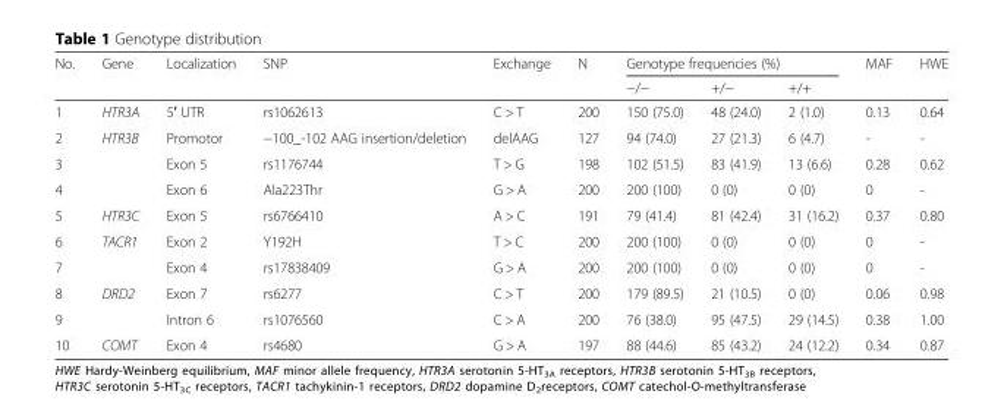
<table><thead><tr><td rowspan="2">No.</td><td rowspan="2">Gene</td><td rowspan="2">Localization</td><td rowspan="2">SNP</td><td rowspan="2">Exchange</td><td rowspan="2">N</td><td colspan="3">Genotype frequencies (%)</td><td rowspan="2">MAF</td><td rowspan="2">HWE</td></tr><tr><td>−/−</td><td>+/−</td><td>+/+</td></tr></thead><tbody><tr><td>1</td><td>HTR3A</td><td>5′ UTR</td><td>rs1062613</td><td>C &gt; T</td><td>200</td><td>150 (75.0)</td><td>48 (24.0)</td><td>2 (1.0)</td><td>0.13</td><td>0.64</td></tr><tr><td>2</td><td rowspan="3">HTR3B</td><td>Promotor</td><td>−100_-102 AAG insertion/deletion</td><td>delAAG</td><td>127</td><td>94 (74.0)</td><td>27 (21.3)</td><td>6 (4.7)</td><td>-</td><td>-</td></tr><tr><td>3</td><td>Exon 5</td><td>rs1176744</td><td>T &gt; G</td><td>198</td><td>102 (51.5)</td><td>83 (41.9)</td><td>13 (6.6)</td><td>0.28</td><td>0.62</td></tr><tr><td>4</td><td>Exon 6</td><td>Ala223Thr</td><td>G &gt; A</td><td>200</td><td>200 (100)</td><td>0 (0)</td><td>0 (0)</td><td>0</td><td>-</td></tr><tr><td>5</td><td>HTR3C</td><td>Exon 5</td><td>rs6766410</td><td>A &gt; C</td><td>191</td><td>79 (41.4)</td><td>81 (42.4)</td><td>31 (16.2)</td><td>0.37</td><td>0.80</td></tr><tr><td>6</td><td rowspan="2">TACR1</td><td>Exon 2</td><td>Y192H</td><td>T &gt; C</td><td>200</td><td>200 (100)</td><td>0 (0)</td><td>0 (0)</td><td>0</td><td>-</td></tr><tr><td>7</td><td>Exon 4</td><td>rs17838409</td><td>G &gt; A</td><td>200</td><td>200 (100)</td><td>0 (0)</td><td>0 (0)</td><td>0</td><td>-</td></tr><tr><td>8</td><td rowspan="2">DRD2</td><td>Exon 7</td><td>rs6277</td><td>C &gt; T</td><td>200</td><td>179 (89.5)</td><td>21 (10.5)</td><td>0 (0)</td><td>0.06</td><td>0.98</td></tr><tr><td>9</td><td>Intron 6</td><td>rs1076560</td><td>C &gt; A</td><td>200</td><td>76 (38.0)</td><td>95 (47.5)</td><td>29 (14.5)</td><td>0.38</td><td>1.00</td></tr><tr><td>10</td><td>COMT</td><td>Exon 4</td><td>rs4680</td><td>G &gt; A</td><td>197</td><td>88 (44.6)</td><td>85 (43.2)</td><td>24 (12.2)</td><td>0.34</td><td>0.87</td></tr></tbody></table>